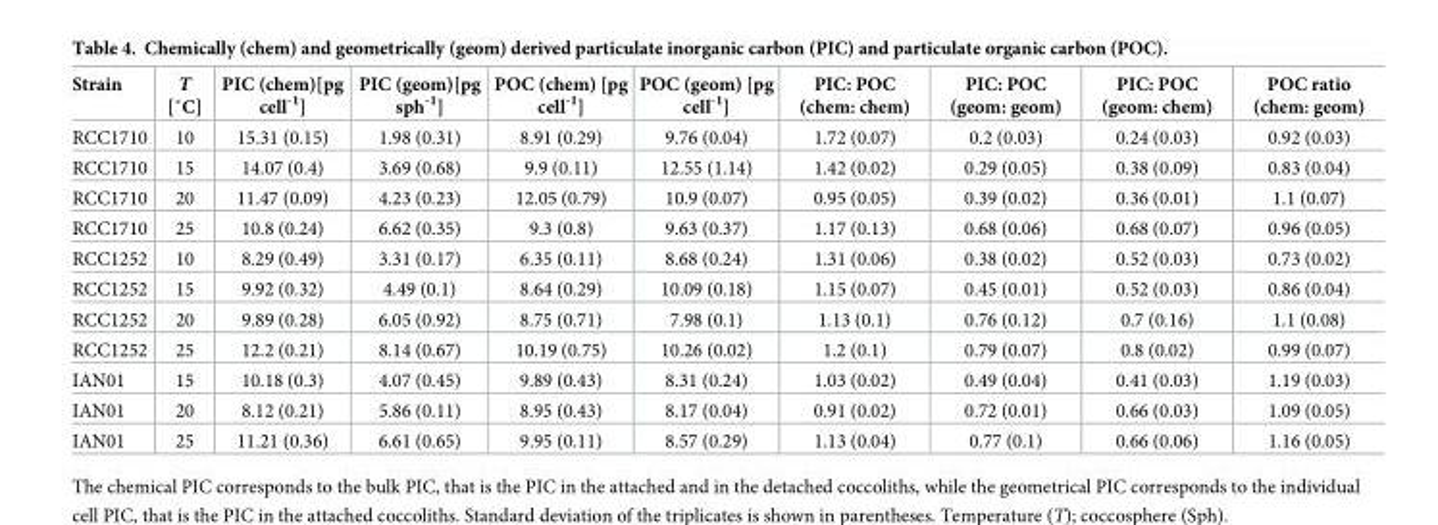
<table><thead><tr><td>Strain</td><td>T [˚C]</td><td>PIC (chem)[pg cell<sup>-1</sup>]</td><td>PIC (geom)[pg sph<sup>-1</sup>]</td><td>POC (chem) [pg cell<sup>-1</sup>]</td><td>POC (geom) [pg cell<sup>-1</sup>]</td><td>PIC: POC (chem: chem)</td><td>PIC: POC (geom: geom)</td><td>PIC: POC (geom: chem)</td><td>POC ratio (chem: geom)</td></tr></thead><tbody><tr><td>RCC1710</td><td>10</td><td>15.31 (0.15)</td><td>1.98 (0.31)</td><td>8.91 (0.29)</td><td>9.76 (0.04)</td><td>1.72 (0.07)</td><td>0.2 (0.03)</td><td>0.24 (0.03)</td><td>0.92 (0.03)</td></tr><tr><td>RCC1710</td><td>15</td><td>14.07 (0.4)</td><td>3.69 (0.68)</td><td>9.9 (0.11)</td><td>12.55 (1.14)</td><td>1.42 (0.02)</td><td>0.29 (0.05)</td><td>0.38 (0.09)</td><td>0.83 (0.04)</td></tr><tr><td>RCC1710</td><td>20</td><td>11.47 (0.09)</td><td>4.23 (0.23)</td><td>12.05 (0.79)</td><td>10.9 (0.07)</td><td>0.95 (0.05)</td><td>0.39 (0.02)</td><td>0.36 (0.01)</td><td>1.1 (0.07)</td></tr><tr><td>RCC1710</td><td>25</td><td>10.8 (0.24)</td><td>6.62 (0.35)</td><td>9.3 (0.8)</td><td>9.63 (0.37)</td><td>1.17 (0.13)</td><td>0.68 (0.06)</td><td>0.68 (0.07)</td><td>0.96 (0.05)</td></tr><tr><td>RCC1252</td><td>10</td><td>8.29 (0.49)</td><td>3.31 (0.17)</td><td>6.35 (0.11)</td><td>8.68 (0.24)</td><td>1.31 (0.06)</td><td>0.38 (0.02)</td><td>0.52 (0.03)</td><td>0.73 (0.02)</td></tr><tr><td>RCC1252</td><td>15</td><td>9.92 (0.32)</td><td>4.49 (0.1)</td><td>8.64 (0.29)</td><td>10.09 (0.18)</td><td>1.15 (0.07)</td><td>0.45 (0.01)</td><td>0.52 (0.03)</td><td>0.86 (0.04)</td></tr><tr><td>RCC1252</td><td>20</td><td>9.89 (0.28)</td><td>6.05 (0.92)</td><td>8.75 (0.71)</td><td>7.98 (0.1)</td><td>1.13 (0.1)</td><td>0.76 (0.12)</td><td>0.7 (0.16)</td><td>1.1 (0.08)</td></tr><tr><td>RCC1252</td><td>25</td><td>12.2 (0.21)</td><td>8.14 (0.67)</td><td>10.19 (0.75)</td><td>10.26 (0.02)</td><td>1.2 (0.1)</td><td>0.79 (0.07)</td><td>0.8 (0.02)</td><td>0.99 (0.07)</td></tr><tr><td>IAN01</td><td>15</td><td>10.18 (0.3)</td><td>4.07 (0.45)</td><td>9.89 (0.43)</td><td>8.31 (0.24)</td><td>1.03 (0.02)</td><td>0.49 (0.04)</td><td>0.41 (0.03)</td><td>1.19 (0.03)</td></tr><tr><td>IAN01</td><td>20</td><td>8.12 (0.21)</td><td>5.86 (0.11)</td><td>8.95 (0.43)</td><td>8.17 (0.04)</td><td>0.91 (0.02)</td><td>0.72 (0.01)</td><td>0.66 (0.03)</td><td>1.09 (0.05)</td></tr><tr><td>IAN01</td><td>25</td><td>11.21 (0.36)</td><td>6.61 (0.65)</td><td>9.95 (0.11)</td><td>8.57 (0.29)</td><td>1.13 (0.04)</td><td>0.77 (0.1)</td><td>0.66 (0.06)</td><td>1.16 (0.05)</td></tr></tbody></table>